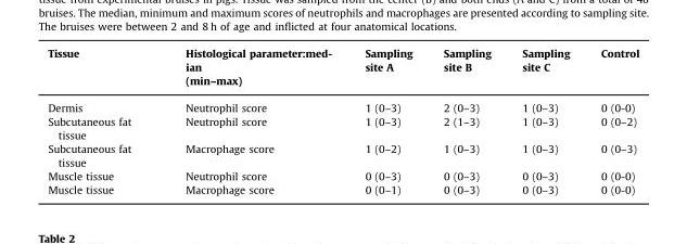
<table><thead><tr><td>Tissue</td><td>Histological parameter:med- ian (min–max)</td><td>Sampling site A</td><td>Sampling site B</td><td>Sampling site C</td><td>Control</td></tr></thead><tbody><tr><td>Dermis</td><td>Neutrophil score</td><td>1 (0–3)</td><td>2 (0–3)</td><td>1 (0–3)</td><td>0 (0-0)</td></tr><tr><td>Subcutaneous fat tissue</td><td>Neutrophil score</td><td>1 (0–3)</td><td>2 (1–3)</td><td>1 (0–3)</td><td>0 (0–2)</td></tr><tr><td>Subcutaneous fat tissue</td><td>Macrophage score</td><td>1 (0–2)</td><td>1 (0–3)</td><td>1 (0–3)</td><td>0 (0–3)</td></tr><tr><td>Muscle tissue</td><td>Neutrophil score</td><td>0 (0–3)</td><td>0 (0–3)</td><td>0 (0–3)</td><td>0 (0-0)</td></tr><tr><td>Muscle tissue</td><td>Macrophage score</td><td>0 (0–1)</td><td>0 (0–3)</td><td>0 (0–3)</td><td>0 (0-0)</td></tr></tbody></table>